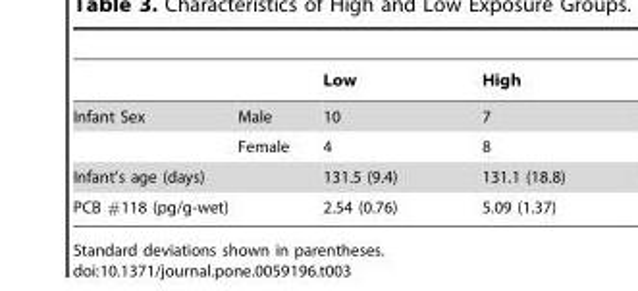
<table><thead><tr><td></td><td></td><td>Low</td><td>High</td></tr></thead><tbody><tr><td rowspan="2">Infant Sex</td><td>Male</td><td>10</td><td>7</td></tr><tr><td>Female</td><td>4</td><td>8</td></tr><tr><td colspan="2">Infant’s age (days)</td><td>131.5 (9.4)</td><td>131.1 (18.8)</td></tr><tr><td colspan="2">PCB #118 (pg/g-wet)</td><td>2.54 (0.76)</td><td>5.09 (1.37)</td></tr></tbody></table>